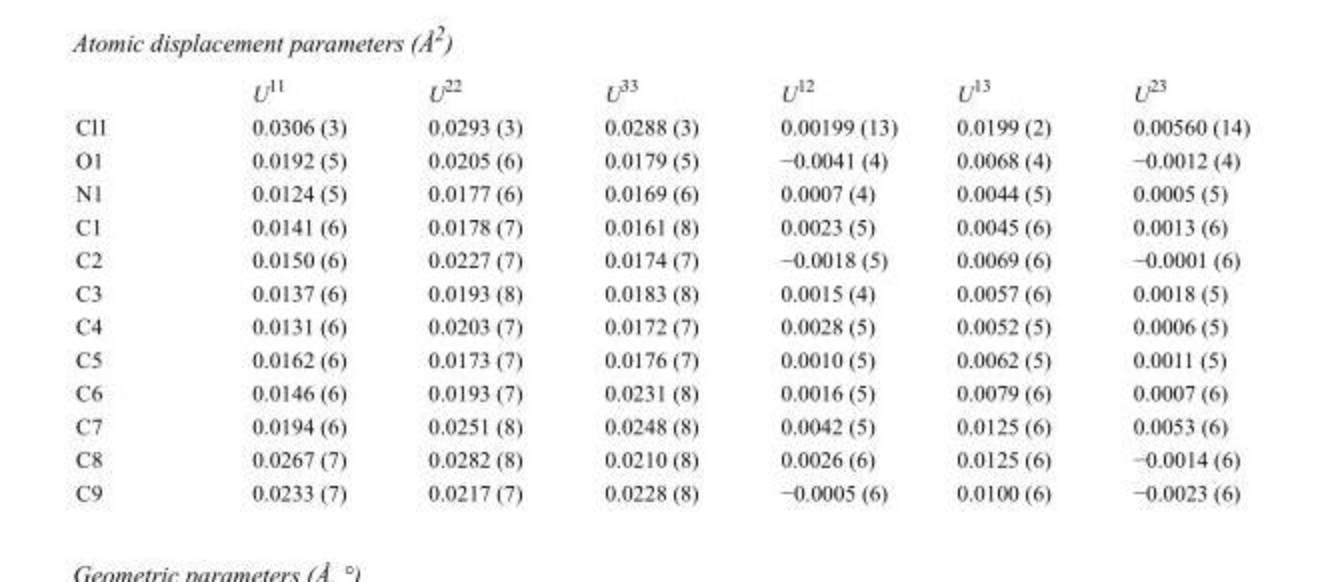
<table><thead><tr><td></td><td>U<sup>11</sup></td><td>U<sup>22</sup></td><td>U<sup>33</sup></td><td>U<sup>12</sup></td><td>U<sup>13</sup></td><td>U<sup>23</sup></td></tr></thead><tbody><tr><td>Cl1</td><td>0.0306 (3)</td><td>0.0293 (3)</td><td>0.0288 (3)</td><td>0.00199 (13)</td><td>0.0199 (2)</td><td>0.00560 (14)</td></tr><tr><td>O1</td><td>0.0192 (5)</td><td>0.0205 (6)</td><td>0.0179 (5)</td><td>−0.0041 (4)</td><td>0.0068 (4)</td><td>−0.0012 (4)</td></tr><tr><td>N1</td><td>0.0124 (5)</td><td>0.0177 (6)</td><td>0.0169 (6)</td><td>0.0007 (4)</td><td>0.0044 (5)</td><td>0.0005 (5)</td></tr><tr><td>C1</td><td>0.0141 (6)</td><td>0.0178 (7)</td><td>0.0161 (8)</td><td>0.0023 (5)</td><td>0.0045 (6)</td><td>0.0013 (6)</td></tr><tr><td>C2</td><td>0.0150 (6)</td><td>0.0227 (7)</td><td>0.0174 (7)</td><td>−0.0018 (5)</td><td>0.0069 (6)</td><td>−0.0001 (6)</td></tr><tr><td>C3</td><td>0.0137 (6)</td><td>0.0193 (8)</td><td>0.0183 (8)</td><td>0.0015 (4)</td><td>0.0057 (6)</td><td>0.0018 (5)</td></tr><tr><td>C4</td><td>0.0131 (6)</td><td>0.0203 (7)</td><td>0.0172 (7)</td><td>0.0028 (5)</td><td>0.0052 (5)</td><td>0.0006 (5)</td></tr><tr><td>C5</td><td>0.0162 (6)</td><td>0.0173 (7)</td><td>0.0176 (7)</td><td>0.0010 (5)</td><td>0.0062 (5)</td><td>0.0011 (5)</td></tr><tr><td>C6</td><td>0.0146 (6)</td><td>0.0193 (7)</td><td>0.0231 (8)</td><td>0.0016 (5)</td><td>0.0079 (6)</td><td>0.0007 (6)</td></tr><tr><td>C7</td><td>0.0194 (6)</td><td>0.0251 (8)</td><td>0.0248 (8)</td><td>0.0042 (5)</td><td>0.0125 (6)</td><td>0.0053 (6)</td></tr><tr><td>C8</td><td>0.0267 (7)</td><td>0.0282 (8)</td><td>0.0210 (8)</td><td>0.0026 (6)</td><td>0.0125 (6)</td><td>−0.0014 (6)</td></tr><tr><td>C9</td><td>0.0233 (7)</td><td>0.0217 (7)</td><td>0.0228 (8)</td><td>−0.0005 (6)</td><td>0.0100 (6)</td><td>−0.0023 (6)</td></tr></tbody></table>